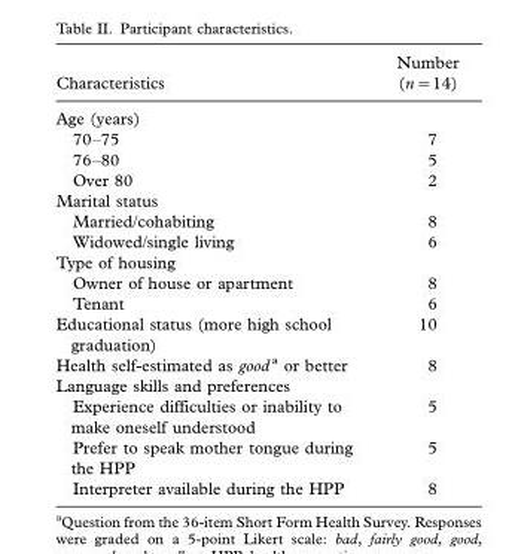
<table><thead><tr><td>Characteristics</td><td>Number (n=14)</td></tr></thead><tbody><tr><td colspan="2">Age (years)</td></tr><tr><td>70–75</td><td>7</td></tr><tr><td>76–80</td><td>5</td></tr><tr><td>Over 80</td><td>2</td></tr><tr><td colspan="2">Marital status</td></tr><tr><td>Married/cohabiting</td><td>8</td></tr><tr><td>Widowed/single living</td><td>6</td></tr><tr><td colspan="2">Type of housing</td></tr><tr><td>Owner of house or apartment</td><td>8</td></tr><tr><td>Tenant</td><td>6</td></tr><tr><td>Educational status (more high school graduation)</td><td>10</td></tr><tr><td>Health self-estimated as good a or better</td><td>8</td></tr><tr><td colspan="2">Language skills and preferences</td></tr><tr><td>Experience difficulties or inability to make oneself understood</td><td>5</td></tr><tr><td>Prefer to speak mother tongue during the HPP</td><td>5</td></tr><tr><td>Interpreter available during the HPP</td><td>8</td></tr></tbody></table>